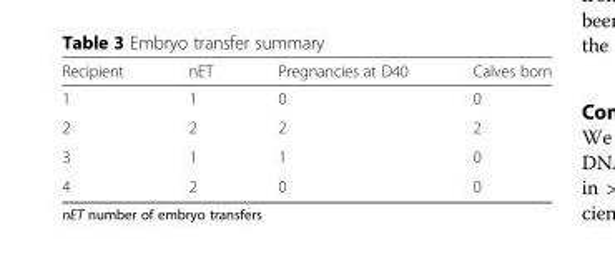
<table><thead><tr><td>Recipient</td><td>nET</td><td>Pregnancies at D40</td><td>Calves born</td></tr></thead><tbody><tr><td>1</td><td>1</td><td>0</td><td>0</td></tr><tr><td>2</td><td>2</td><td>2</td><td>2</td></tr><tr><td>3</td><td>1</td><td>1</td><td>0</td></tr><tr><td>4</td><td>2</td><td>0</td><td>0</td></tr></tbody></table>